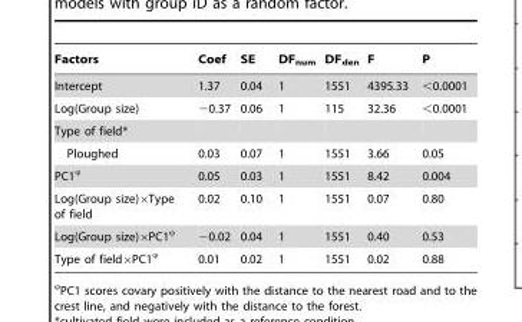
<table><thead><tr><td>Factors</td><td>Coef</td><td>SE</td><td>DF<sub>num</sub></td><td>DF<sub>den</sub></td><td>F</td><td>P</td></tr></thead><tbody><tr><td>Intercept</td><td>1.37</td><td>0.04</td><td>1</td><td>1551</td><td>4395.33</td><td>&lt;0.0001</td></tr><tr><td>Log(Group size)</td><td>−0.37</td><td>0.06</td><td>1</td><td>115</td><td>32.36</td><td>&lt;0.0001</td></tr><tr><td colspan="7">Type of field*</td></tr><tr><td>Ploughed</td><td>0.03</td><td>0.07</td><td>1</td><td>1551</td><td>3.66</td><td>0.05</td></tr><tr><td>PC1ϕ</td><td>0.05</td><td>0.03</td><td>1</td><td>1551</td><td>8.42</td><td>0.004</td></tr><tr><td>Log(Group size)×Type of field</td><td>0.02</td><td>0.10</td><td>1</td><td>1551</td><td>0.07</td><td>0.80</td></tr><tr><td>Log(Group size)×PC1ϕ</td><td>−0.02</td><td>0.04</td><td>1</td><td>1551</td><td>0.40</td><td>0.53</td></tr><tr><td>Type of field×PC1ϕ</td><td>0.01</td><td>0.02</td><td>1</td><td>1551</td><td>0.02</td><td>0.88</td></tr></tbody></table>